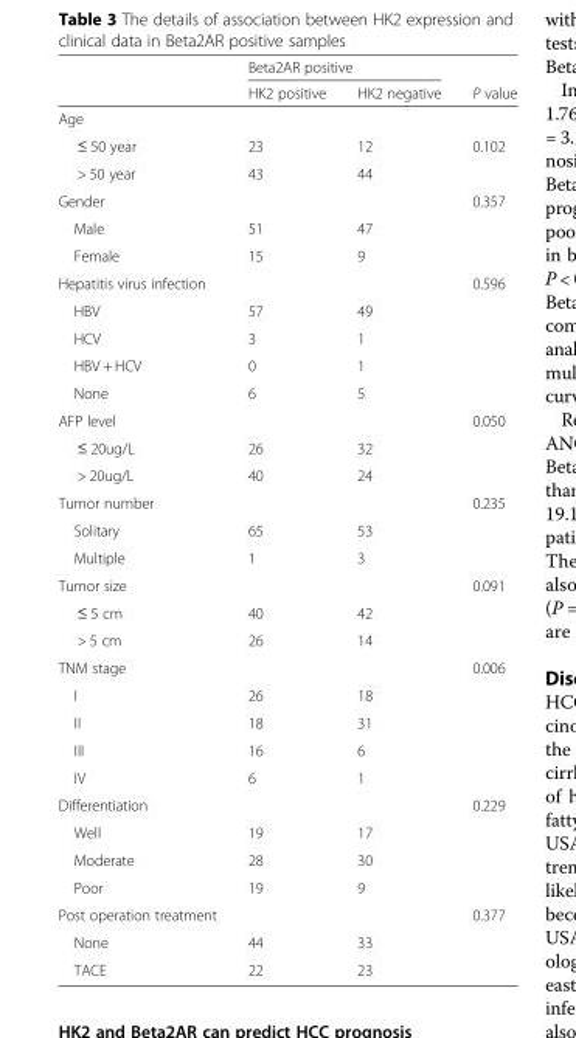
<table><thead><tr><td rowspan="2"></td><td colspan="2">Beta2AR positive</td><td rowspan="2">P value</td></tr><tr><td>HK2 positive</td><td>HK2 negative</td></tr></thead><tbody><tr><td colspan="4">Age</td></tr><tr><td>≤ 50 year</td><td>23</td><td>12</td><td>0.102</td></tr><tr><td>&gt; 50 year</td><td>43</td><td>44</td><td></td></tr><tr><td>Gender</td><td></td><td></td><td>0.357</td></tr><tr><td>Male</td><td>51</td><td>47</td><td></td></tr><tr><td>Female</td><td>15</td><td>9</td><td></td></tr><tr><td>Hepatitis virus infection</td><td></td><td></td><td>0.596</td></tr><tr><td>HBV</td><td>57</td><td>49</td><td></td></tr><tr><td>HCV</td><td>3</td><td>1</td><td></td></tr><tr><td>HBV + HCV</td><td>0</td><td>1</td><td></td></tr><tr><td>None</td><td>6</td><td>5</td><td></td></tr><tr><td>AFP level</td><td></td><td></td><td>0.050</td></tr><tr><td>≤ 20ug/L</td><td>26</td><td>32</td><td></td></tr><tr><td>&gt; 20ug/L</td><td>40</td><td>24</td><td></td></tr><tr><td>Tumor number</td><td></td><td></td><td>0.235</td></tr><tr><td>Solitary</td><td>65</td><td>53</td><td></td></tr><tr><td>Multiple</td><td>1</td><td>3</td><td></td></tr><tr><td>Tumor size</td><td></td><td></td><td>0.091</td></tr><tr><td>≤ 5 cm</td><td>40</td><td>42</td><td></td></tr><tr><td>&gt; 5 cm</td><td>26</td><td>14</td><td></td></tr><tr><td>TNM stage</td><td></td><td></td><td>0.006</td></tr><tr><td>I</td><td>26</td><td>18</td><td></td></tr><tr><td>II</td><td>18</td><td>31</td><td></td></tr><tr><td>III</td><td>16</td><td>6</td><td></td></tr><tr><td>IV</td><td>6</td><td>1</td><td></td></tr><tr><td>Differentiation</td><td></td><td></td><td>0.229</td></tr><tr><td>Well</td><td>19</td><td>17</td><td></td></tr><tr><td>Moderate</td><td>28</td><td>30</td><td></td></tr><tr><td>Poor</td><td>19</td><td>9</td><td></td></tr><tr><td>Post operation treatment</td><td></td><td></td><td>0.377</td></tr><tr><td>None</td><td>44</td><td>33</td><td></td></tr><tr><td>TACE</td><td>22</td><td>23</td><td></td></tr></tbody></table>